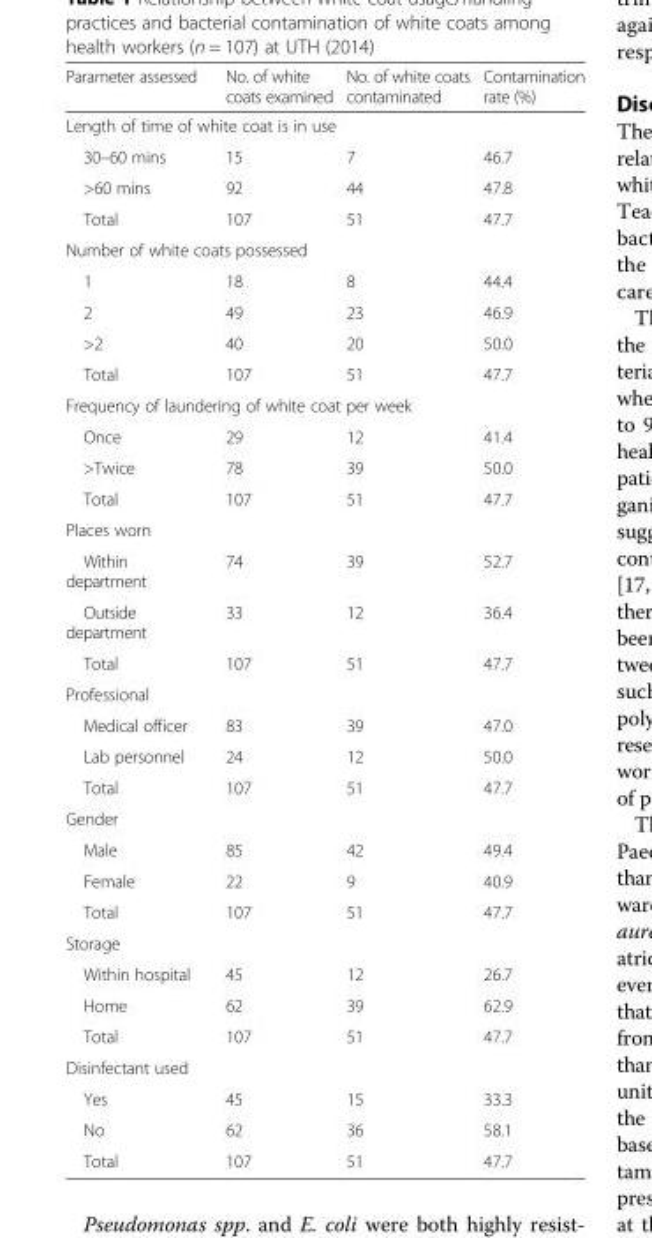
<table><thead><tr><td>Parameter assessed</td><td>No. of white coats examined</td><td>No. of white coats contaminated</td><td>Contamination rate (%)</td></tr></thead><tbody><tr><td colspan="4">Length of time of white coat is in use</td></tr><tr><td>30–60 mins</td><td>15</td><td>7</td><td>46.7</td></tr><tr><td>&gt;60 mins</td><td>92</td><td>44</td><td>47.8</td></tr><tr><td>Total</td><td>107</td><td>51</td><td>47.7</td></tr><tr><td colspan="4">Number of white coats possessed</td></tr><tr><td>1</td><td>18</td><td>8</td><td>44.4</td></tr><tr><td>2</td><td>49</td><td>23</td><td>46.9</td></tr><tr><td>&gt;2</td><td>40</td><td>20</td><td>50.0</td></tr><tr><td>Total</td><td>107</td><td>51</td><td>47.7</td></tr><tr><td colspan="4">Frequency of laundering of white coat per week</td></tr><tr><td>Once</td><td>29</td><td>12</td><td>41.4</td></tr><tr><td>&gt;Twice</td><td>78</td><td>39</td><td>50.0</td></tr><tr><td>Total</td><td>107</td><td>51</td><td>47.7</td></tr><tr><td colspan="4">Places worn</td></tr><tr><td>Within department</td><td>74</td><td>39</td><td>52.7</td></tr><tr><td>Outside department</td><td>33</td><td>12</td><td>36.4</td></tr><tr><td>Total</td><td>107</td><td>51</td><td>47.7</td></tr><tr><td colspan="4">Professional</td></tr><tr><td>Medical officer</td><td>83</td><td>39</td><td>47.0</td></tr><tr><td>Lab personnel</td><td>24</td><td>12</td><td>50.0</td></tr><tr><td>Total</td><td>107</td><td>51</td><td>47.7</td></tr><tr><td colspan="4">Gender</td></tr><tr><td>Male</td><td>85</td><td>42</td><td>49.4</td></tr><tr><td>Female</td><td>22</td><td>9</td><td>40.9</td></tr><tr><td>Total</td><td>107</td><td>51</td><td>47.7</td></tr><tr><td colspan="4">Storage</td></tr><tr><td>Within hospital</td><td>45</td><td>12</td><td>26.7</td></tr><tr><td>Home</td><td>62</td><td>39</td><td>62.9</td></tr><tr><td>Total</td><td>107</td><td>51</td><td>47.7</td></tr><tr><td colspan="4">Disinfectant used</td></tr><tr><td>Yes</td><td>45</td><td>15</td><td>33.3</td></tr><tr><td>No</td><td>62</td><td>36</td><td>58.1</td></tr><tr><td>Total</td><td>107</td><td>51</td><td>47.7</td></tr></tbody></table>